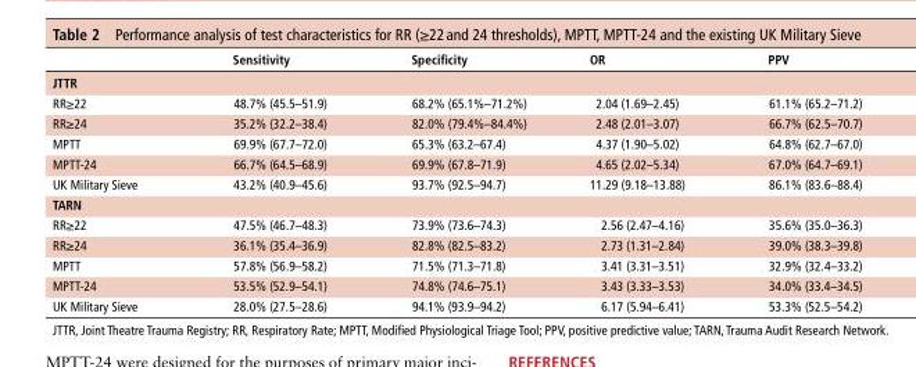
<table><thead><tr><td></td><td>sensitivity</td><td>specificity</td><td>Or</td><td>PPV</td></tr></thead><tbody><tr><td colspan="5">JTTr</td></tr><tr><td>RR≥22</td><td>48.7% (45.5–51.9)</td><td>68.2% (65.1%–71.2%)</td><td>2.04 (1.69–2.45)</td><td>61.1% (65.2–71.2)</td></tr><tr><td>RR≥24</td><td>35.2% (32.2–38.4)</td><td>82.0% (79.4%–84.4%)</td><td>2.48 (2.01–3.07)</td><td>66.7% (62.5–70.7)</td></tr><tr><td>MPTT</td><td>69.9% (67.7–72.0)</td><td>65.3% (63.2–67.4)</td><td>4.37 (1.90–5.02)</td><td>64.8% (62.7–67.0)</td></tr><tr><td>MPTT-24</td><td>66.7% (64.5–68.9)</td><td>69.9% (67.8–71.9)</td><td>4.65 (2.02–5.34)</td><td>67.0% (64.7–69.1)</td></tr><tr><td>UK Military Sieve</td><td>43.2% (40.9–45.6)</td><td>93.7% (92.5–94.7)</td><td>11.29 (9.18–13.88)</td><td>86.1% (83.6–88.4)</td></tr><tr><td colspan="5">TArn</td></tr><tr><td>RR≥22</td><td>47.5% (46.7–48.3)</td><td>73.9% (73.6–74.3)</td><td>2.56 (2.47–4.16)</td><td>35.6% (35.0–36.3)</td></tr><tr><td>RR≥24</td><td>36.1% (35.4–36.9)</td><td>82.8% (82.5–83.2)</td><td>2.73 (1.31–2.84)</td><td>39.0% (38.3–39.8)</td></tr><tr><td>MPTT</td><td>57.8% (56.9–58.2)</td><td>71.5% (71.3–71.8)</td><td>3.41 (3.31–3.51)</td><td>32.9% (32.4–33.2)</td></tr><tr><td>MPTT-24</td><td>53.5% (52.9–54.1)</td><td>74.8% (74.6–75.1)</td><td>3.43 (3.33–3.53)</td><td>34.0% (33.4–34.5)</td></tr><tr><td>UK Military Sieve</td><td>28.0% (27.5–28.6)</td><td>94.1% (93.9–94.2)</td><td>6.17 (5.94–6.41)</td><td>53.3% (52.5–54.2)</td></tr></tbody></table>